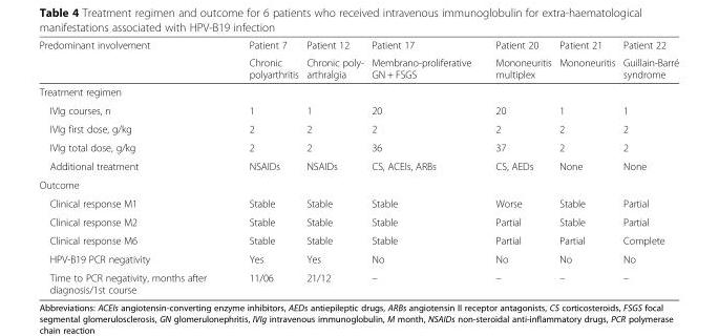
<table><thead><tr><td rowspan="2">Predominant involvement</td><td rowspan="2">Patient 7 Chronic polyarthritis</td><td rowspan="2">Patient 12 Chronic poly- arthralgia</td><td rowspan="2">Patient 17 Membrano-proliferative GN + FSGS</td><td rowspan="2">Patient 20 Mononeuritis multiplex</td><td rowspan="2">Patient 21 Mononeuritis</td><td rowspan="2">Patient 22 Guillain-Barré syndrome</td></tr><tr></tr></thead><tbody><tr><td colspan="7">Treatment regimen</td></tr><tr><td>IVIg courses, n</td><td>1</td><td>1</td><td>20</td><td>20</td><td>1</td><td>1</td></tr><tr><td>IVIg first dose, g/kg</td><td>2</td><td>2</td><td>2</td><td>2</td><td>2</td><td>2</td></tr><tr><td>IVIg total dose, g/kg</td><td>2</td><td>2</td><td>36</td><td>37</td><td>2</td><td>2</td></tr><tr><td>Additional treatment</td><td>NSAIDs</td><td>NSAIDs</td><td>CS, ACEIs, ARBs</td><td>CS, AEDs</td><td>None</td><td>None</td></tr><tr><td colspan="7">Outcome</td></tr><tr><td>Clinical response M1</td><td>Stable</td><td>Stable</td><td>Stable</td><td>Worse</td><td>Stable</td><td>Partial</td></tr><tr><td>Clinical response M2</td><td>Stable</td><td>Stable</td><td>Stable</td><td>Partial</td><td>Stable</td><td>Partial</td></tr><tr><td>Clinical response M6</td><td>Stable</td><td>Stable</td><td>Stable</td><td>Partial</td><td>Partial</td><td>Complete</td></tr><tr><td>HPV-B19 PCR negativity</td><td>Yes</td><td>Yes</td><td>No</td><td>No</td><td>No</td><td>No</td></tr><tr><td>Time to PCR negativity, months after diagnosis/1st course</td><td>11/06</td><td>21/12</td><td>–</td><td>–</td><td>–</td><td>–</td></tr></tbody></table>